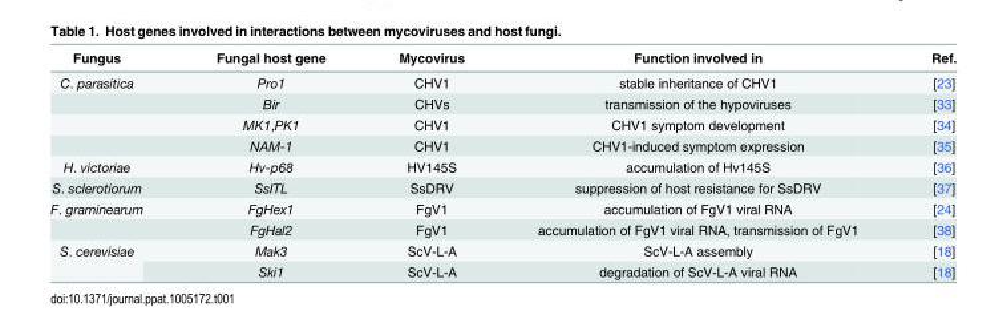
<table><thead><tr><td>Fungus</td><td>Fungal host gene</td><td>Mycovirus</td><td>Function involved in</td><td>Ref.</td></tr></thead><tbody><tr><td rowspan="4">C. parasitica</td><td>Pro1</td><td>CHV1</td><td>stable inheritance of CHV1</td><td>[23]</td></tr><tr><td>Bir</td><td>CHVs</td><td>transmission of the hypoviruses</td><td>[33]</td></tr><tr><td>MK1,PK1</td><td>CHV1</td><td>CHV1 symptom development</td><td>[34]</td></tr><tr><td>NAM-1</td><td>CHV1</td><td>CHV1-induced symptom expression</td><td>[35]</td></tr><tr><td>H. victoriae</td><td>Hv-p68</td><td>HV145S</td><td>accumulation of Hv145S</td><td>[36]</td></tr><tr><td>S. sclerotiorum</td><td>SsITL</td><td>SsDRV</td><td>suppression of host resistance for SsDRV</td><td>[37]</td></tr><tr><td rowspan="2">F. graminearum</td><td>FgHex1</td><td>FgV1</td><td>accumulation of FgV1 viral RNA</td><td>[24]</td></tr><tr><td>FgHal2</td><td>FgV1</td><td>accumulation of FgV1 viral RNA, transmission of FgV1</td><td>[38]</td></tr><tr><td rowspan="2">S. cerevisiae</td><td>Mak3</td><td>ScV-L-A</td><td>ScV-L-A assembly</td><td>[18]</td></tr><tr><td>Ski1</td><td>ScV-L-A</td><td>degradation of ScV-L-A viral RNA</td><td>[18]</td></tr></tbody></table>